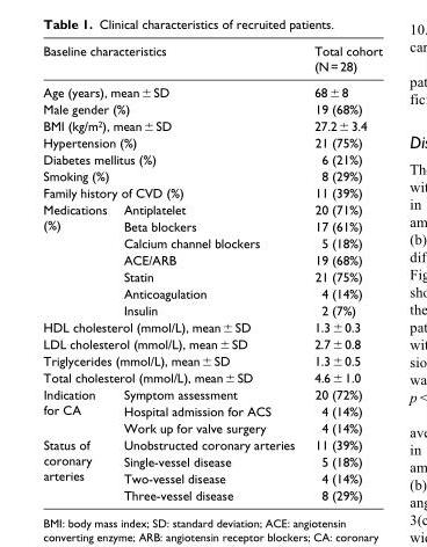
<table><thead><tr><td colspan="2">Baseline characteristics</td><td>Total cohort (N = 28)</td></tr></thead><tbody><tr><td colspan="2">Age (years), mean ± SD</td><td>68 ± 8</td></tr><tr><td colspan="2">Male gender (%)</td><td>19 (68%)</td></tr><tr><td colspan="2">BMI (kg/m<sup>2</sup>), mean ± SD</td><td>27.2 ± 3.4</td></tr><tr><td colspan="2">Hypertension (%)</td><td>21 (75%)</td></tr><tr><td colspan="2">Diabetes mellitus (%)</td><td>6 (21%)</td></tr><tr><td colspan="2">Smoking (%)</td><td>8 (29%)</td></tr><tr><td colspan="2">Family history of CVD (%)</td><td>11 (39%)</td></tr><tr><td rowspan="7">Medications (%)</td><td>Antiplatelet</td><td>20 (71%)</td></tr><tr><td>Beta blockers</td><td>17 (61%)</td></tr><tr><td>Calcium channel blockers</td><td>5 (18%)</td></tr><tr><td>ACE/ARB</td><td>19 (68%)</td></tr><tr><td>Statin</td><td>21 (75%)</td></tr><tr><td>Anticoagulation</td><td>4 (14%)</td></tr><tr><td>Insulin</td><td>2 (7%)</td></tr><tr><td colspan="2">HDL cholesterol (mmol/L), mean ± SD</td><td>1.3 ± 0.3</td></tr><tr><td colspan="2">LDL cholesterol (mmol/L), mean ± SD</td><td>2.7 ± 0.8</td></tr><tr><td colspan="2">Triglycerides (mmol/L), mean ± SD</td><td>1.3 ± 0.5</td></tr><tr><td colspan="2">Total cholesterol (mmol/L), mean ± SD</td><td>4.6 ± 1.0</td></tr><tr><td rowspan="3">Indication for CA</td><td>Symptom assessment</td><td>20 (72%)</td></tr><tr><td>Hospital admission for ACS</td><td>4 (14%)</td></tr><tr><td>Work up for valve surgery</td><td>4 (14%)</td></tr><tr><td rowspan="4">Status of coronary arteries</td><td>Unobstructed coronary arteries</td><td>11 (39%)</td></tr><tr><td>Single-vessel disease</td><td>5 (18%)</td></tr><tr><td>Two-vessel disease</td><td>4 (14%)</td></tr><tr><td>Three-vessel disease</td><td>8 (29%)</td></tr></tbody></table>